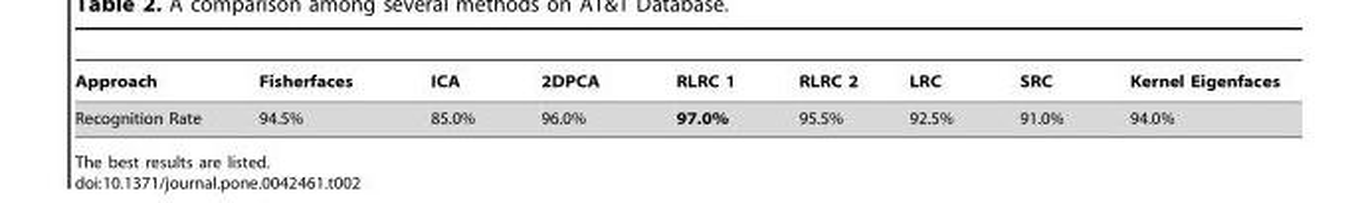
<table><thead><tr><td>Approach</td><td>Fisherfaces</td><td>ICA</td><td>2DPCA</td><td>RLRC 1</td><td>RLRC 2</td><td>LRC</td><td>SRC</td><td>Kernel Eigenfaces</td></tr></thead><tbody><tr><td>Recognition Rate</td><td>94.5%</td><td>85.0%</td><td>96.0%</td><td>97.0%</td><td>95.5%</td><td>92.5%</td><td>91.0%</td><td>94.0%</td></tr></tbody></table>